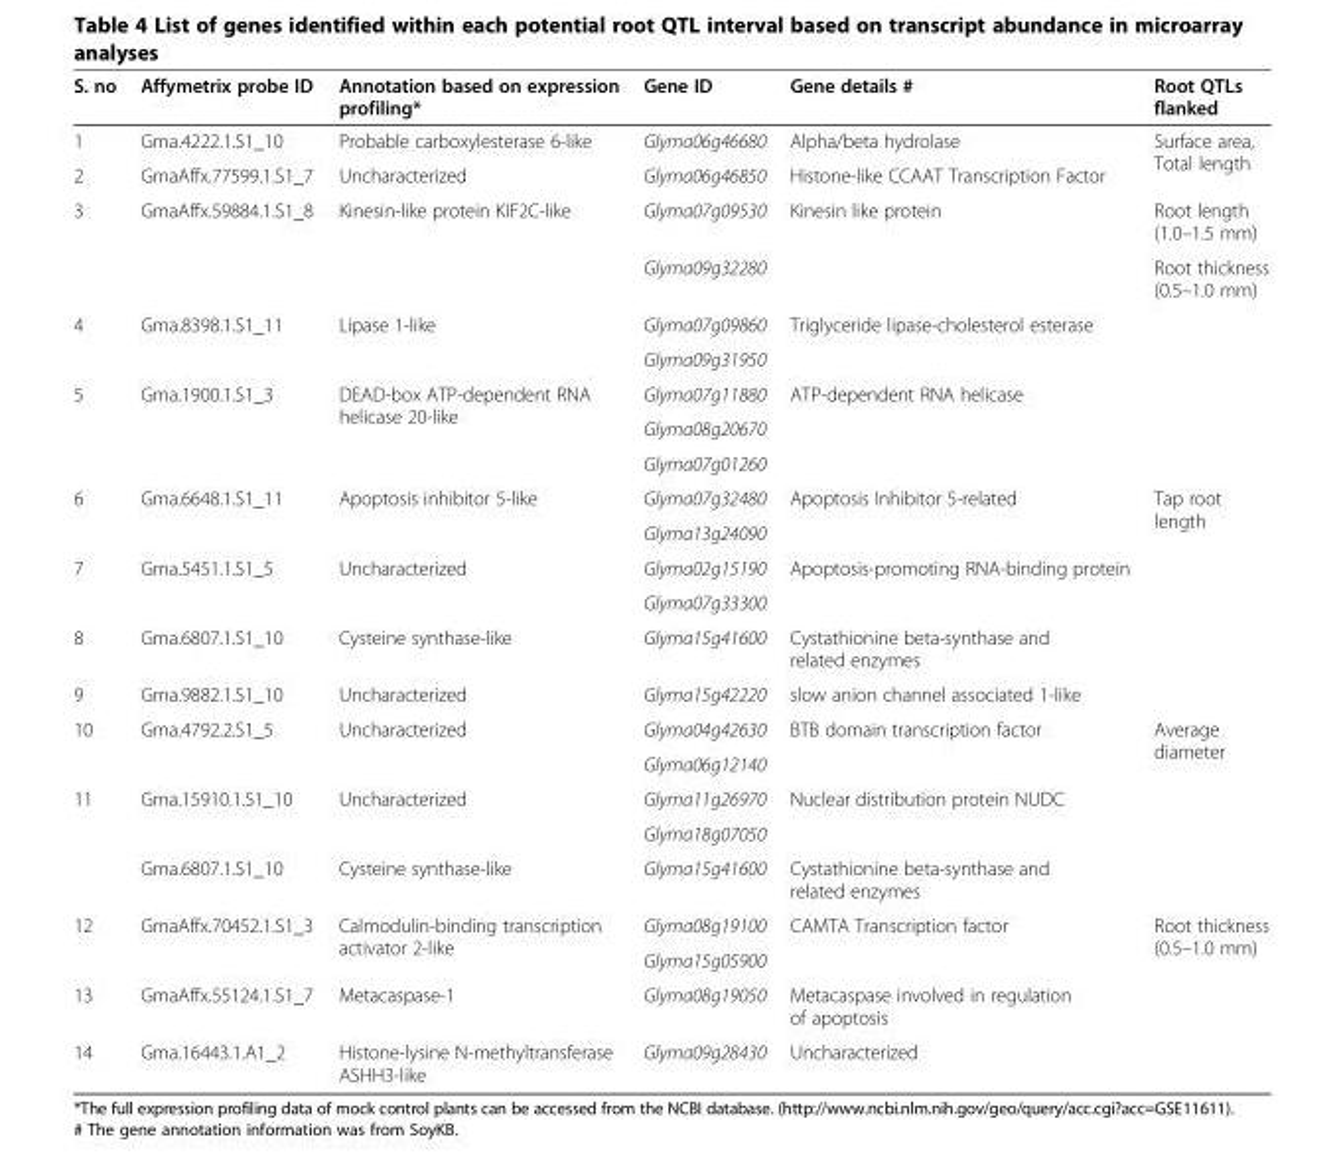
<table><thead><tr><td>S. no</td><td>Affymetrix probe ID</td><td>Annotation based on expression profiling*</td><td>Gene ID</td><td>Gene details #</td><td>Root QTLs flanked</td></tr></thead><tbody><tr><td>1</td><td>Gma.4222.1.S1_10</td><td>Probable carboxylesterase 6-like</td><td>Glyma06g46680</td><td>Alpha/beta hydrolase</td><td rowspan="2">Surface area, Total length</td></tr><tr><td>2</td><td>GmaAffx.77599.1.S1_7</td><td>Uncharacterized</td><td>Glyma06g46850</td><td>Histone-like CCAAT Transcription Factor</td></tr><tr><td rowspan="2">3</td><td rowspan="2">GmaAffx.59884.1.S1_8</td><td rowspan="2">Kinesin-like protein KIF2C-like</td><td>Glyma07g09530</td><td rowspan="2">Kinesin like protein</td><td>Root length (1.0–1.5 mm)</td></tr><tr><td>Glyma09g32280</td><td>Root thickness (0.5–1.0 mm)</td></tr><tr><td rowspan="2">4</td><td rowspan="2">Gma.8398.1.S1_11</td><td rowspan="2">Lipase 1-like</td><td>Glyma07g09860</td><td rowspan="2">Triglyceride lipase-cholesterol esterase</td><td rowspan="5"></td></tr><tr><td>Glyma09g31950</td></tr><tr><td rowspan="3">5</td><td rowspan="3">Gma.1900.1.S1_3</td><td rowspan="3">DEAD-box ATP-dependent RNA helicase 20-like</td><td>Glyma07g11880</td><td rowspan="3">ATP-dependent RNA helicase</td></tr><tr><td>Glyma08g20670</td></tr><tr><td>Glyma07g01260</td></tr><tr><td rowspan="2">6</td><td rowspan="2">Gma.6648.1.S1_11</td><td rowspan="2">Apoptosis inhibitor 5-like</td><td>Glyma07g32480</td><td rowspan="2">Apoptosis Inhibitor 5-related</td><td rowspan="6">Tap root length</td></tr><tr><td>Glyma13g24090</td></tr><tr><td rowspan="2">7</td><td rowspan="2">Gma.5451.1.S1_5</td><td rowspan="2">Uncharacterized</td><td>Glyma02g15190</td><td rowspan="2">Apoptosis-promoting RNA-binding protein</td></tr><tr><td>Glyma07g33300</td></tr><tr><td>8</td><td>Gma.6807.1.S1_10</td><td>Cysteine synthase-like</td><td>Glyma15g41600</td><td>Cystathionine beta-synthase and related enzymes</td></tr><tr><td>9</td><td>Gma.9882.1.S1_10</td><td>Uncharacterized</td><td>Glyma15g42220</td><td>slow anion channel associated 1-like</td></tr><tr><td rowspan="2">10</td><td rowspan="2">Gma.4792.2.S1_5</td><td rowspan="2">Uncharacterized</td><td>Glyma04g42630</td><td rowspan="2">BTB domain transcription factor</td><td rowspan="5">Average diameter</td></tr><tr><td>Glyma06g12140</td></tr><tr><td rowspan="3">11</td><td rowspan="2">Gma.15910.1.S1_10</td><td rowspan="2">Uncharacterized</td><td>Glyma11g26970</td><td rowspan="2">Nuclear distribution protein NUDC</td></tr><tr><td>Glyma18g07050</td></tr><tr><td>Gma.6807.1.S1_10</td><td>Cysteine synthase-like</td><td>Glyma15g41600</td><td>Cystathionine beta-synthase and related enzymes</td></tr><tr><td rowspan="2">12</td><td rowspan="2">GmaAffx.70452.1.S1_3</td><td rowspan="2">Calmodulin-binding transcription activator 2-like</td><td>Glyma08g19100</td><td rowspan="2">CAMTA Transcription factor</td><td rowspan="4">Root thickness (0.5–1.0 mm)</td></tr><tr><td>Glyma15g05900</td></tr><tr><td>13</td><td>GmaAffx.55124.1.S1_7</td><td>Metacaspase-1</td><td>Glyma08g19050</td><td>Metacaspase involved in regulation of apoptosis</td></tr><tr><td>14</td><td>Gma.16443.1.A1_2</td><td>Histone-lysine N-methyltransferase ASHH3-like</td><td>Glyma09g28430</td><td>Uncharacterized</td></tr></tbody></table>